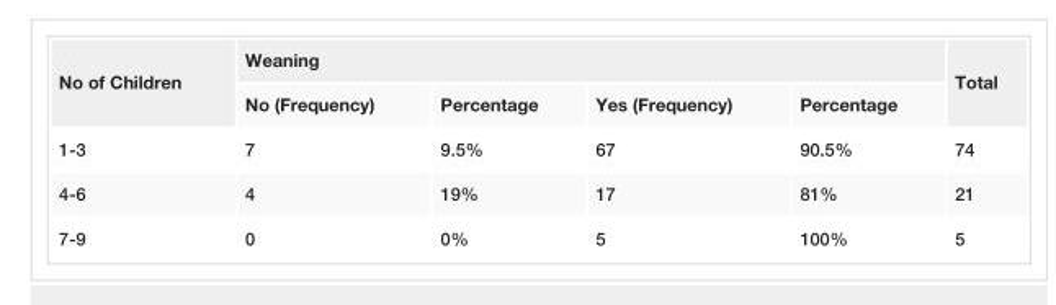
<table><tbody><tr><td rowspan="2">No of Children</td><td colspan="4">Weaning</td><td rowspan="2">Total</td></tr><tr><td>No (Frequency)</td><td>Percentage</td><td>Yes (Frequency)</td><td>Percentage</td></tr><tr><td>1-3</td><td>7</td><td>9.5%</td><td>67</td><td>90.5%</td><td>74</td></tr><tr><td>4-6</td><td>4</td><td>19%</td><td>17</td><td>81%</td><td>21</td></tr><tr><td>7-9</td><td>0</td><td>0%</td><td>5</td><td>100%</td><td>5</td></tr></tbody></table>